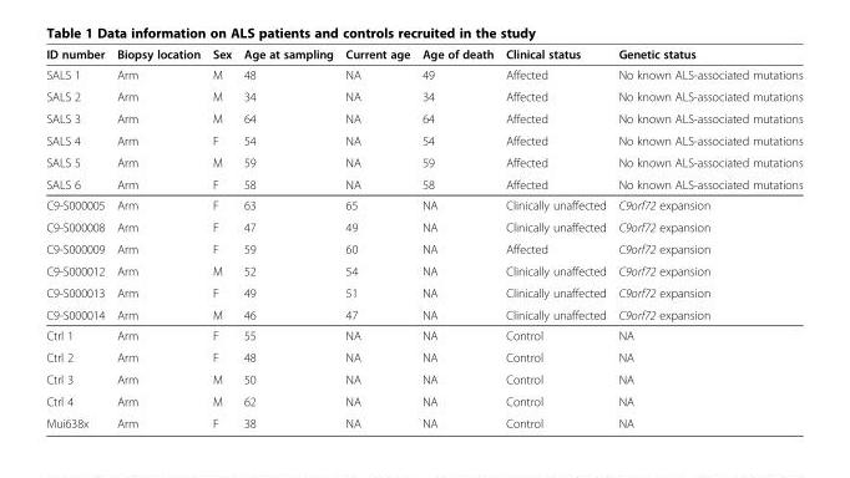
<table><thead><tr><td>ID number</td><td>Biopsy location</td><td>Sex</td><td>Age at sampling</td><td>Current age</td><td>Age of death</td><td>Clinical status</td><td>Genetic status</td></tr></thead><tbody><tr><td>SALS 1</td><td>Arm</td><td>M</td><td>48</td><td>NA</td><td>49</td><td>Affected</td><td>No known ALS-associated mutations</td></tr><tr><td>SALS 2</td><td>Arm</td><td>M</td><td>34</td><td>NA</td><td>34</td><td>Affected</td><td>No known ALS-associated mutations</td></tr><tr><td>SALS 3</td><td>Arm</td><td>M</td><td>64</td><td>NA</td><td>64</td><td>Affected</td><td>No known ALS-associated mutations</td></tr><tr><td>SALS 4</td><td>Arm</td><td>F</td><td>54</td><td>NA</td><td>54</td><td>Affected</td><td>No known ALS-associated mutations</td></tr><tr><td>SALS 5</td><td>Arm</td><td>M</td><td>59</td><td>NA</td><td>59</td><td>Affected</td><td>No known ALS-associated mutations</td></tr><tr><td>SALS 6</td><td>Arm</td><td>F</td><td>58</td><td>NA</td><td>58</td><td>Affected</td><td>No known ALS-associated mutations</td></tr><tr><td>C9-S000005</td><td>Arm</td><td>F</td><td>63</td><td>65</td><td>NA</td><td>Clinically unaffected</td><td>C9orf72 expansion</td></tr><tr><td>C9-S000008</td><td>Arm</td><td>F</td><td>47</td><td>49</td><td>NA</td><td>Clinically unaffected</td><td>C9orf72 expansion</td></tr><tr><td>C9-S000009</td><td>Arm</td><td>F</td><td>59</td><td>60</td><td>NA</td><td>Affected</td><td>C9orf72 expansion</td></tr><tr><td>C9-S000012</td><td>Arm</td><td>M</td><td>52</td><td>54</td><td>NA</td><td>Clinically unaffected</td><td>C9orf72 expansion</td></tr><tr><td>C9-S000013</td><td>Arm</td><td>F</td><td>49</td><td>51</td><td>NA</td><td>Clinically unaffected</td><td>C9orf72 expansion</td></tr><tr><td>C9-S000014</td><td>Arm</td><td>M</td><td>46</td><td>47</td><td>NA</td><td>Clinically unaffected</td><td>C9orf72 expansion</td></tr><tr><td>Ctrl 1</td><td>Arm</td><td>F</td><td>55</td><td>NA</td><td>NA</td><td>Control</td><td>NA</td></tr><tr><td>Ctrl 2</td><td>Arm</td><td>F</td><td>48</td><td>NA</td><td>NA</td><td>Control</td><td>NA</td></tr><tr><td>Ctrl 3</td><td>Arm</td><td>M</td><td>50</td><td>NA</td><td>NA</td><td>Control</td><td>NA</td></tr><tr><td>Ctrl 4</td><td>Arm</td><td>M</td><td>62</td><td>NA</td><td>NA</td><td>Control</td><td>NA</td></tr><tr><td>Mui638x</td><td>Arm</td><td>F</td><td>38</td><td>NA</td><td>NA</td><td>Control</td><td>NA</td></tr></tbody></table>